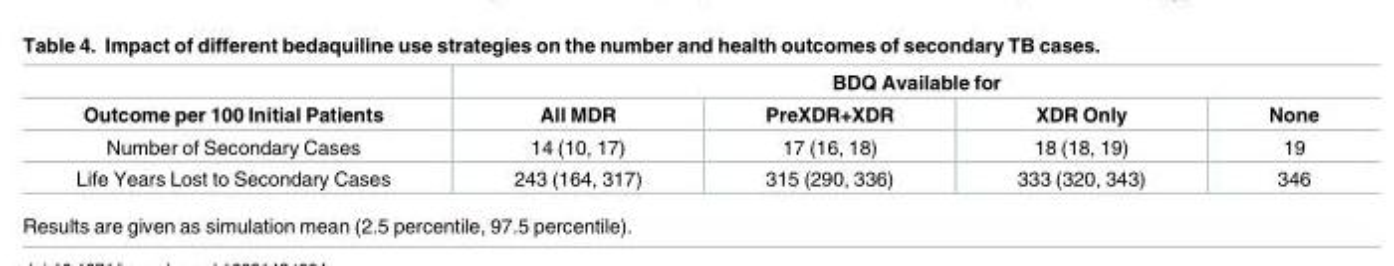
<table><thead><tr><td rowspan="2">Outcome per 100 Initial Patients</td><td colspan="4">BDQ Available for</td></tr><tr><td>All MDR</td><td>PreXDR+XDR</td><td>XDR Only</td><td>None</td></tr></thead><tbody><tr><td>Number of Secondary Cases</td><td>14 (10, 17)</td><td>17 (16, 18)</td><td>18 (18, 19)</td><td>19</td></tr><tr><td>Life Years Lost to Secondary Cases</td><td>243 (164, 317)</td><td>315 (290, 336)</td><td>333 (320, 343)</td><td>346</td></tr></tbody></table>